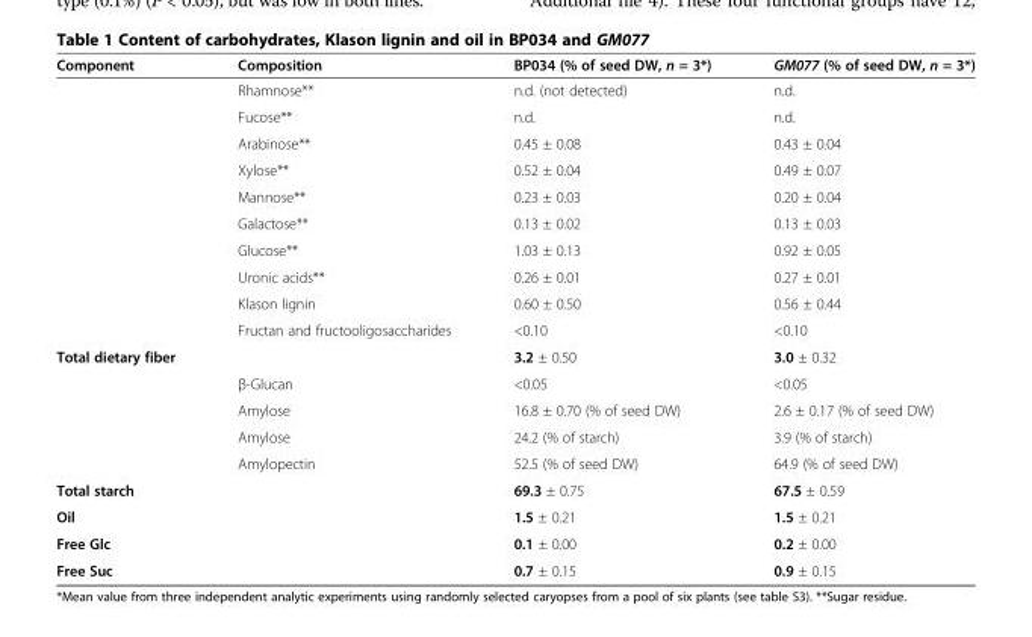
<table><thead><tr><td>Component</td><td>Composition</td><td>BP034 (% of seed DW, n = 3*)</td><td>GM077 (% of seed DW, n = 3*)</td></tr></thead><tbody><tr><td rowspan="10"></td><td>Rhamnose**</td><td>n.d. (not detected)</td><td>n.d.</td></tr><tr><td>Fucose**</td><td>n.d.</td><td>n.d.</td></tr><tr><td>Arabinose**</td><td>0.45 ± 0.08</td><td>0.43 ± 0.04</td></tr><tr><td>Xylose**</td><td>0.52 ± 0.04</td><td>0.49 ± 0.07</td></tr><tr><td>Mannose**</td><td>0.23 ± 0.03</td><td>0.20 ± 0.04</td></tr><tr><td>Galactose**</td><td>0.13 ± 0.02</td><td>0.13 ± 0.03</td></tr><tr><td>Glucose**</td><td>1.03 ± 0.13</td><td>0.92 ± 0.05</td></tr><tr><td>Uronic acids**</td><td>0.26 ± 0.01</td><td>0.27 ± 0.01</td></tr><tr><td>Klason lignin</td><td>0.60 ± 0.50</td><td>0.56 ± 0.44</td></tr><tr><td>Fructan and fructooligosaccharides</td><td>&lt;0.10</td><td>&lt;0.10</td></tr><tr><td rowspan="5">Total dietary fiber</td><td></td><td>3.2 ± 0.50</td><td>3.0 ± 0.32</td></tr><tr><td>β-Glucan</td><td>&lt;0.05</td><td>&lt;0.05</td></tr><tr><td>Amylose</td><td>16.8 ± 0.70 (% of seed DW)</td><td>2.6 ± 0.17 (% of seed DW)</td></tr><tr><td>Amylose</td><td>24.2 (% of starch)</td><td>3.9 (% of starch)</td></tr><tr><td>Amylopectin</td><td>52.5 (% of seed DW)</td><td>64.9 (% of seed DW)</td></tr><tr><td>Total starch</td><td></td><td>69.3 ± 0.75</td><td>67.5 ± 0.59</td></tr><tr><td>Oil</td><td></td><td>1.5 ± 0.21</td><td>1.5 ± 0.21</td></tr><tr><td>Free Glc</td><td></td><td>0.1 ± 0.00</td><td>0.2 ± 0.00</td></tr><tr><td>Free Suc</td><td></td><td>0.7 ± 0.15</td><td>0.9 ± 0.15</td></tr></tbody></table>